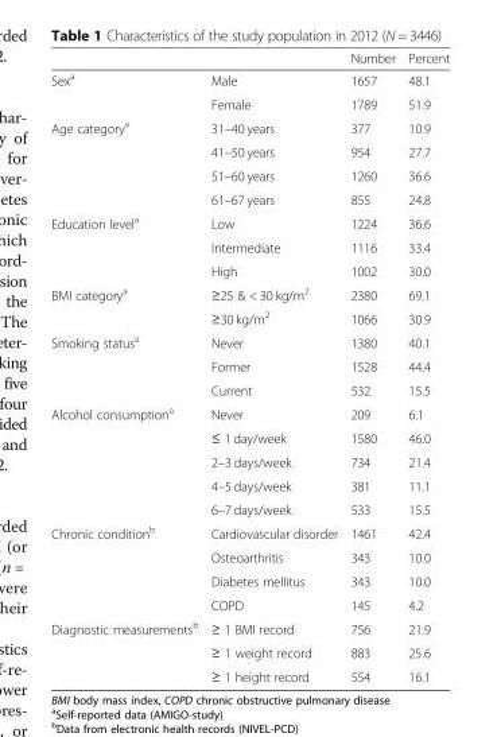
<table><thead><tr><td></td><td></td><td>Number</td><td>Percent</td></tr></thead><tbody><tr><td rowspan="2">Sex<sup>a</sup></td><td>Male</td><td>1657</td><td>48.1</td></tr><tr><td>Female</td><td>1789</td><td>51.9</td></tr><tr><td rowspan="4">Age category<sup>a</sup></td><td>31–40 years</td><td>377</td><td>10.9</td></tr><tr><td>41–50 years</td><td>954</td><td>27.7</td></tr><tr><td>51–60 years</td><td>1260</td><td>36.6</td></tr><tr><td>61–67 years</td><td>855</td><td>24.8</td></tr><tr><td rowspan="3">Education level<sup>a</sup></td><td>Low</td><td>1224</td><td>36.6</td></tr><tr><td>Intermediate</td><td>1116</td><td>33.4</td></tr><tr><td>High</td><td>1002</td><td>30.0</td></tr><tr><td rowspan="2">BMI category<sup>a</sup></td><td>≥25 &amp; &lt; 30 kg/m<sup>2</sup></td><td>2380</td><td>69.1</td></tr><tr><td>≥30 kg/m<sup>2</sup></td><td>1066</td><td>30.9</td></tr><tr><td rowspan="3">Smoking status<sup>a</sup></td><td>Never</td><td>1380</td><td>40.1</td></tr><tr><td>Former</td><td>1528</td><td>44.4</td></tr><tr><td>Current</td><td>532</td><td>15.5</td></tr><tr><td rowspan="5">Alcohol consumption<sup>a</sup></td><td>Never</td><td>209</td><td>6.1</td></tr><tr><td>≤ 1 day/week</td><td>1580</td><td>46.0</td></tr><tr><td>2–3 days/week</td><td>734</td><td>21.4</td></tr><tr><td>4–5 days/week</td><td>381</td><td>11.1</td></tr><tr><td>6–7 days/week</td><td>533</td><td>15.5</td></tr><tr><td rowspan="4">Chronic condition<sup>b</sup></td><td>Cardiovascular disorder</td><td>1461</td><td>42.4</td></tr><tr><td>Osteoarthritis</td><td>343</td><td>10.0</td></tr><tr><td>Diabetes mellitus</td><td>343</td><td>10.0</td></tr><tr><td>COPD</td><td>145</td><td>4.2</td></tr><tr><td rowspan="3">Diagnostic measurements<sup>b</sup></td><td>≥ 1 BMI record</td><td>756</td><td>21.9</td></tr><tr><td>≥ 1 weight record</td><td>883</td><td>25.6</td></tr><tr><td>≥ 1 height record</td><td>554</td><td>16.1</td></tr></tbody></table>